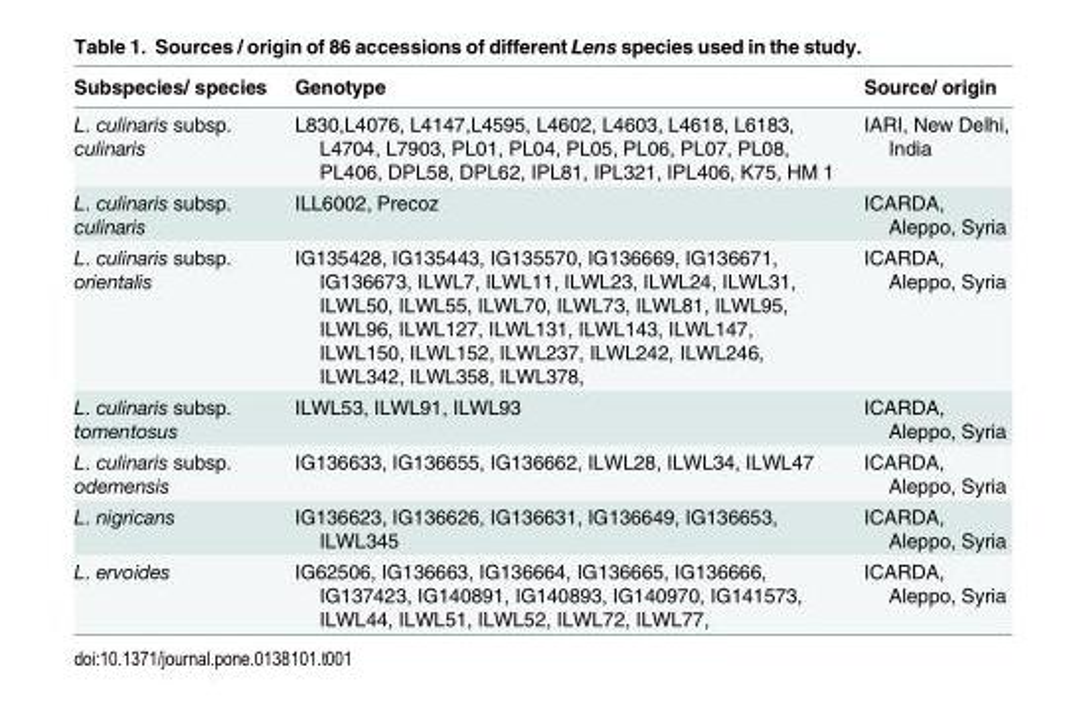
<table><thead><tr><td>Subspecies/ species</td><td>Genotype</td><td>Source/ origin</td></tr></thead><tbody><tr><td>L. culinaris subsp. culinaris</td><td>L830,L4076, L4147,L4595, L4602, L4603, L4618, L6183, L4704, L7903, PL01, PL04, PL05, PL06, PL07, PL08, PL406, DPL58, DPL62, IPL81, IPL321, IPL406, K75, HM 1</td><td>IARI, New Delhi, India</td></tr><tr><td>L. culinaris subsp. culinaris</td><td>ILL6002, Precoz</td><td>ICARDA, Aleppo, Syria</td></tr><tr><td>L. culinaris subsp. orientalis</td><td>IG135428, IG135443, IG135570, IG136669, IG136671, IG136673, ILWL7, ILWL11, ILWL23, ILWL24, ILWL31, ILWL50, ILWL55, ILWL70, ILWL73, ILWL81, ILWL95, ILWL96, ILWL127, ILWL131, ILWL143, ILWL147, ILWL150, ILWL152, ILWL237, ILWL242, ILWL246, ILWL342, ILWL358, ILWL378,</td><td>ICARDA, Aleppo, Syria</td></tr><tr><td>L. culinaris subsp. tomentosus</td><td>ILWL53, ILWL91, ILWL93</td><td>ICARDA, Aleppo, Syria</td></tr><tr><td>L. culinaris subsp. odemensis</td><td>IG136633, IG136655, IG136662, ILWL28, ILWL34, ILWL47</td><td>ICARDA, Aleppo, Syria</td></tr><tr><td>L. nigricans</td><td>IG136623, IG136626, IG136631, IG136649, IG136653, ILWL345</td><td>ICARDA, Aleppo, Syria</td></tr><tr><td>L. ervoides</td><td>IG62506, IG136663, IG136664, IG136665, IG136666, IG137423, IG140891, IG140893, IG140970, IG141573, ILWL44, ILWL51, ILWL52, ILWL72, ILWL77,</td><td>ICARDA, Aleppo, Syria</td></tr></tbody></table>